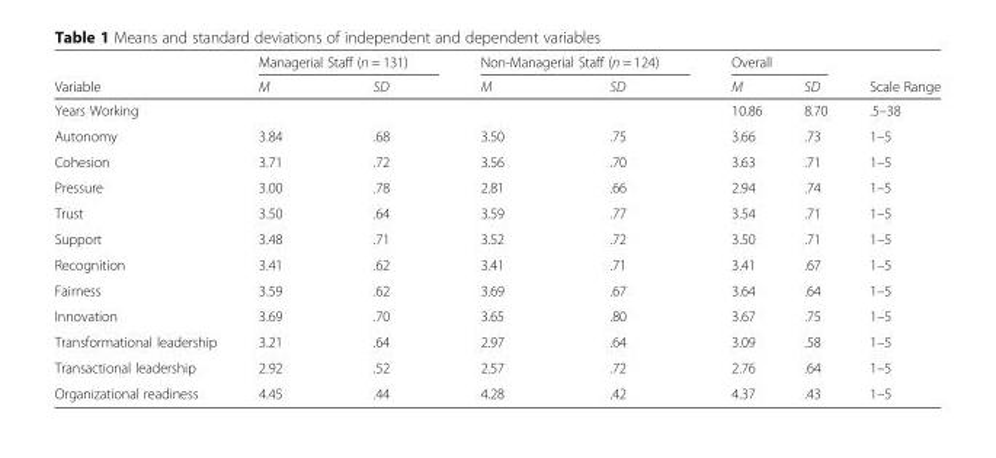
<table><thead><tr><td rowspan="2">Variable</td><td colspan="2">Managerial Staff (n = 131)</td><td colspan="2">Non-Managerial Staff (n = 124)</td><td colspan="2">Overall</td><td rowspan="2">Scale Range</td></tr><tr><td>M</td><td>SD</td><td>M</td><td>SD</td><td>M</td><td>SD</td></tr></thead><tbody><tr><td>Years Working</td><td></td><td></td><td></td><td></td><td>10.86</td><td>8.70</td><td>.5–38</td></tr><tr><td>Autonomy</td><td>3.84</td><td>.68</td><td>3.50</td><td>.75</td><td>3.66</td><td>.73</td><td>1–5</td></tr><tr><td>Cohesion</td><td>3.71</td><td>.72</td><td>3.56</td><td>.70</td><td>3.63</td><td>.71</td><td>1–5</td></tr><tr><td>Pressure</td><td>3.00</td><td>.78</td><td>2.81</td><td>.66</td><td>2.94</td><td>.74</td><td>1–5</td></tr><tr><td>Trust</td><td>3.50</td><td>.64</td><td>3.59</td><td>.77</td><td>3.54</td><td>.71</td><td>1–5</td></tr><tr><td>Support</td><td>3.48</td><td>.71</td><td>3.52</td><td>.72</td><td>3.50</td><td>.71</td><td>1–5</td></tr><tr><td>Recognition</td><td>3.41</td><td>.62</td><td>3.41</td><td>.71</td><td>3.41</td><td>.67</td><td>1–5</td></tr><tr><td>Fairness</td><td>3.59</td><td>.62</td><td>3.69</td><td>.67</td><td>3.64</td><td>.64</td><td>1–5</td></tr><tr><td>Innovation</td><td>3.69</td><td>.70</td><td>3.65</td><td>.80</td><td>3.67</td><td>.75</td><td>1–5</td></tr><tr><td>Transformational leadership</td><td>3.21</td><td>.64</td><td>2.97</td><td>.64</td><td>3.09</td><td>.58</td><td>1–5</td></tr><tr><td>Transactional leadership</td><td>2.92</td><td>.52</td><td>2.57</td><td>.72</td><td>2.76</td><td>.64</td><td>1–5</td></tr><tr><td>Organizational readiness</td><td>4.45</td><td>.44</td><td>4.28</td><td>.42</td><td>4.37</td><td>.43</td><td>1–5</td></tr></tbody></table>